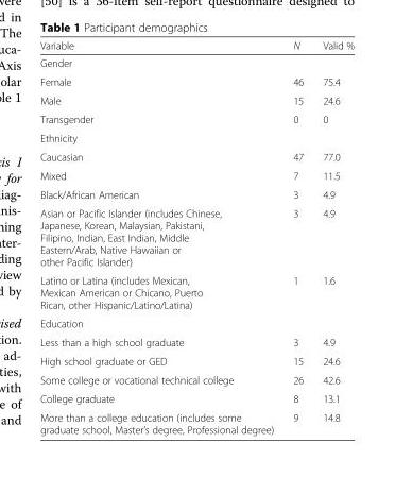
<table><thead><tr><td>Variable</td><td>N</td><td>Valid %</td></tr></thead><tbody><tr><td colspan="3">Gender</td></tr><tr><td>Female</td><td>46</td><td>75.4</td></tr><tr><td>Male</td><td>15</td><td>24.6</td></tr><tr><td>Transgender</td><td>0</td><td>0</td></tr><tr><td colspan="3">Ethnicity</td></tr><tr><td>Caucasian</td><td>47</td><td>77.0</td></tr><tr><td>Mixed</td><td>7</td><td>11.5</td></tr><tr><td>Black/African American</td><td>3</td><td>4.9</td></tr><tr><td>Asian or Pacific Islander (includes Chinese, Japanese, Korean, Malaysian, Pakistani, Filipino, Indian, East Indian, Middle Eastern/Arab, Native Hawaiian or other Pacific Islander)</td><td>3</td><td>4.9</td></tr><tr><td>Latino or Latina (includes Mexican, Mexican American or Chicano, Puerto Rican, other Hispanic/Latino/Latina)</td><td>1</td><td>1.6</td></tr><tr><td colspan="3">Education</td></tr><tr><td>Less than a high school graduate</td><td>3</td><td>4.9</td></tr><tr><td>High school graduate or GED</td><td>15</td><td>24.6</td></tr><tr><td>Some college or vocational technical college</td><td>26</td><td>42.6</td></tr><tr><td>College graduate</td><td>8</td><td>13.1</td></tr><tr><td>More than a college education (includes some graduate school, Master’s degree, Professional degree)</td><td>9</td><td>14.8</td></tr></tbody></table>